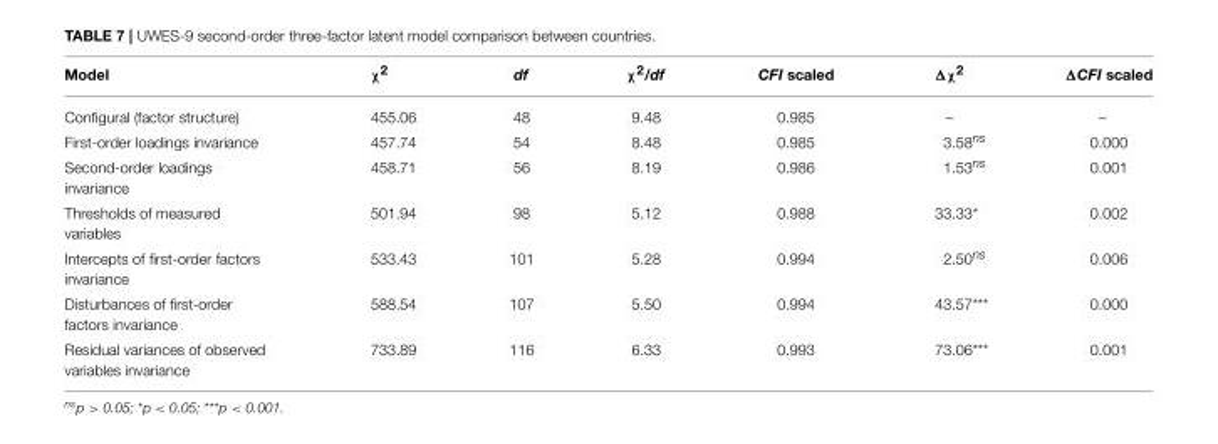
<table><thead><tr><td>Model</td><td>χ<sup>2</sup></td><td>df</td><td>χ<sup>2</sup>/df</td><td>CFI scaled</td><td>Δχ<sup>2</sup></td><td>ΔCFI scaled</td></tr></thead><tbody><tr><td>Configural (factor structure)</td><td>455.06</td><td>48</td><td>9.48</td><td>0.985</td><td>–</td><td>–</td></tr><tr><td>First-order loadings invariance</td><td>457.74</td><td>54</td><td>8.48</td><td>0.985</td><td>3.58<sup>ns</sup></td><td>0.000</td></tr><tr><td>Second-order loadings invariance</td><td>458.71</td><td>56</td><td>8.19</td><td>0.986</td><td>1.53<sup>ns</sup></td><td>0.001</td></tr><tr><td>Thresholds of measured variables</td><td>501.94</td><td>98</td><td>5.12</td><td>0.988</td><td>33.33*</td><td>0.002</td></tr><tr><td>Intercepts of first-order factors invariance</td><td>533.43</td><td>101</td><td>5.28</td><td>0.994</td><td>2.50<sup>ns</sup></td><td>0.006</td></tr><tr><td>Disturbances of first-order factors invariance</td><td>588.54</td><td>107</td><td>5.50</td><td>0.994</td><td>43.57***</td><td>0.000</td></tr><tr><td>Residual variances of observed variables invariance</td><td>733.89</td><td>116</td><td>6.33</td><td>0.993</td><td>73.06***</td><td>0.001</td></tr></tbody></table>